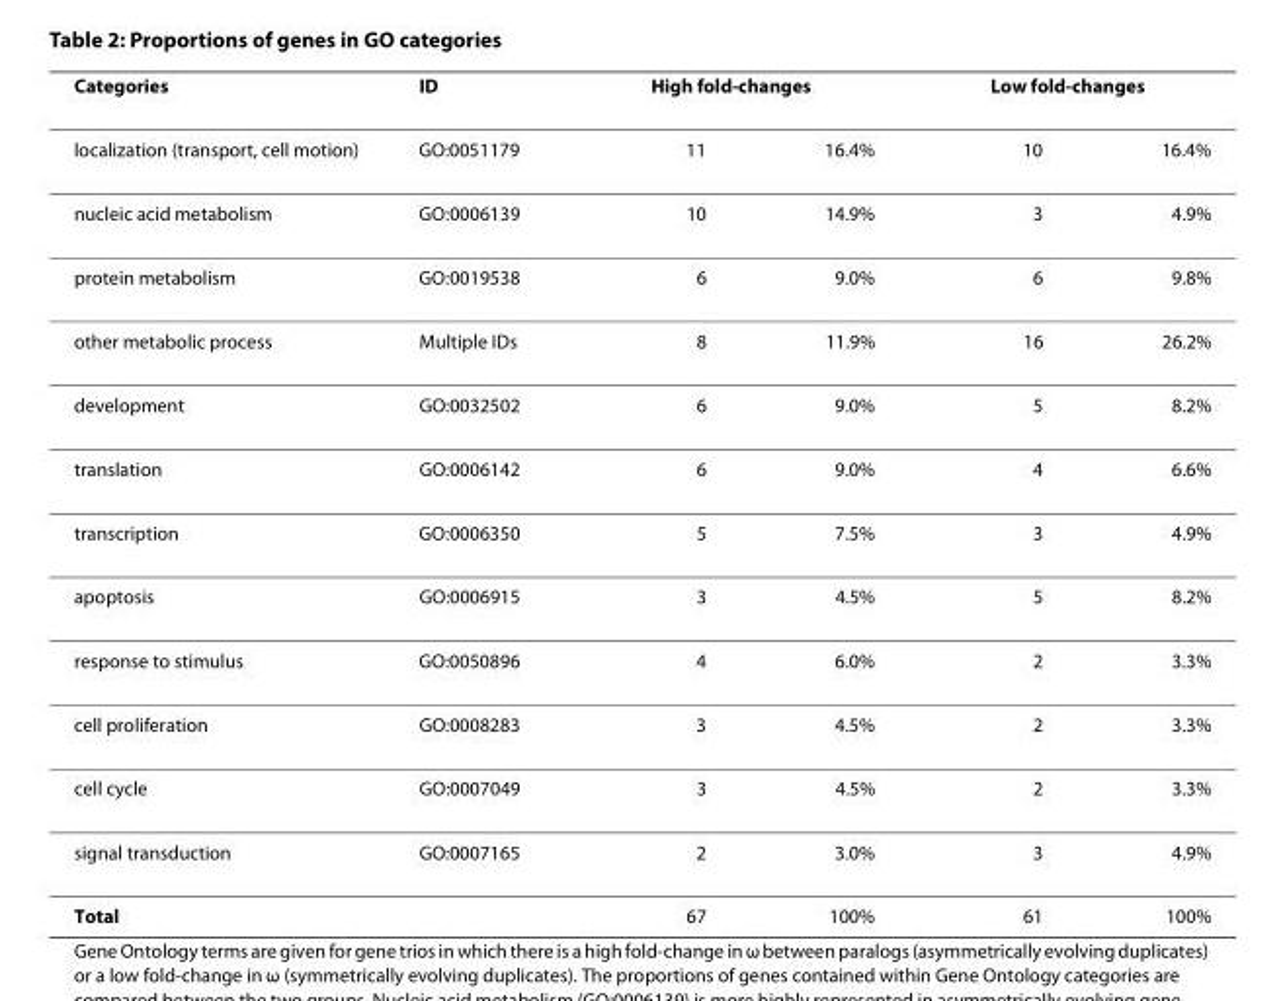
<table><thead><tr><td rowspan="2">Categories localization (transport, cell motion)</td><td rowspan="2">ID GO:0051179</td><td colspan="2">High fold-changes</td><td colspan="2">Low fold-changes</td></tr><tr><td>11</td><td>16.4%</td><td>10</td><td>16.4%</td></tr></thead><tbody><tr><td>nucleic acid metabolism</td><td>GO:0006139</td><td>10</td><td>14.9%</td><td>3</td><td>4.9%</td></tr><tr><td>protein metabolism</td><td>GO:0019538</td><td>6</td><td>9.0%</td><td>6</td><td>9.8%</td></tr><tr><td>other metabolic process</td><td>Multiple IDs</td><td>8</td><td>11.9%</td><td>16</td><td>26.2%</td></tr><tr><td>development</td><td>GO:0032502</td><td>6</td><td>9.0%</td><td>5</td><td>8.2%</td></tr><tr><td>translation</td><td>GO:0006142</td><td>6</td><td>9.0%</td><td>4</td><td>6.6%</td></tr><tr><td>transcription</td><td>GO:0006350</td><td>5</td><td>7.5%</td><td>3</td><td>4.9%</td></tr><tr><td>apoptosis</td><td>GO:0006915</td><td>3</td><td>4.5%</td><td>5</td><td>8.2%</td></tr><tr><td>response to stimulus</td><td>GO:0050896</td><td>4</td><td>6.0%</td><td>2</td><td>3.3%</td></tr><tr><td>cell proliferation</td><td>GO:0008283</td><td>3</td><td>4.5%</td><td>2</td><td>3.3%</td></tr><tr><td>cell cycle</td><td>GO:0007049</td><td>3</td><td>4.5%</td><td>2</td><td>3.3%</td></tr><tr><td>signal transduction</td><td>GO:0007165</td><td>2</td><td>3.0%</td><td>3</td><td>4.9%</td></tr><tr><td>Total</td><td></td><td>67</td><td>100%</td><td>61</td><td>100%</td></tr></tbody></table>